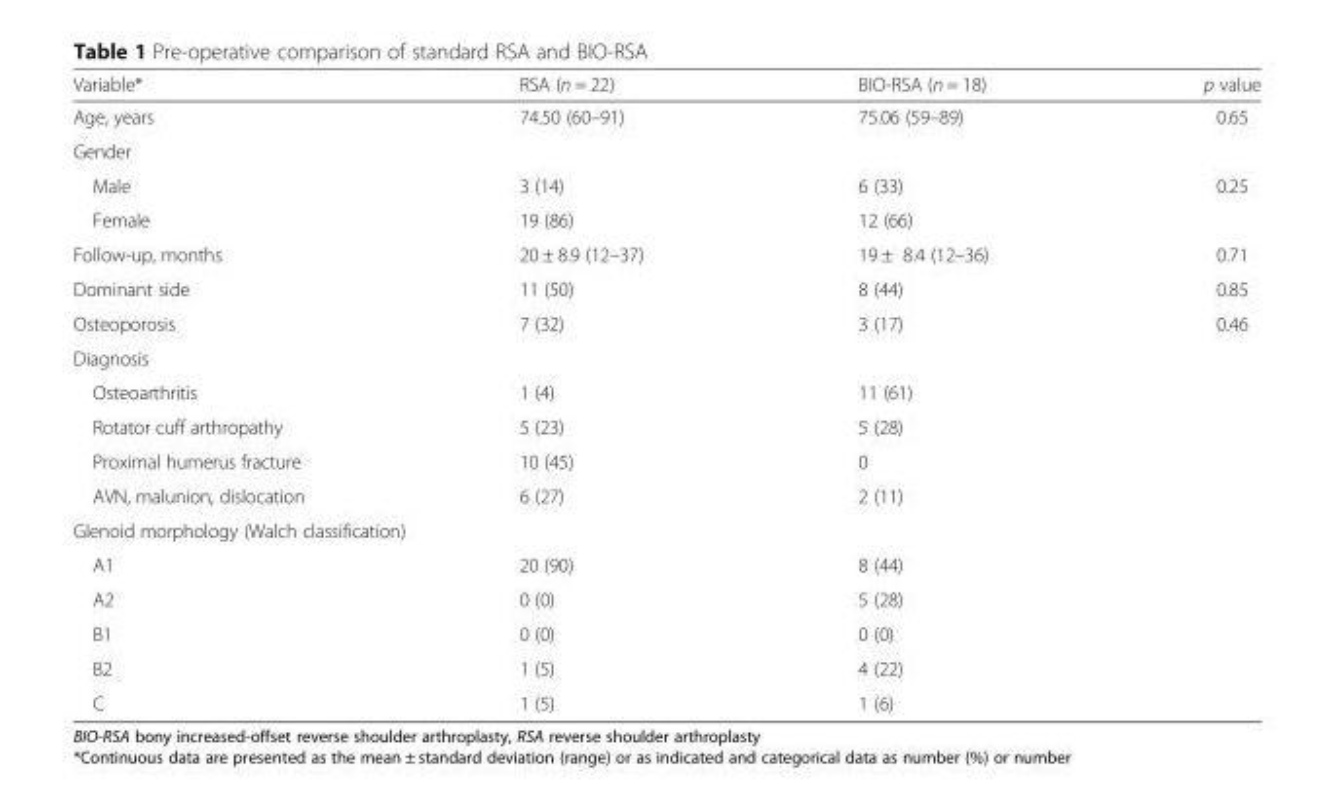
<table><thead><tr><td>Variable*</td><td>RSA (n = 22)</td><td>BIO-RSA (n = 18)</td><td>p value</td></tr></thead><tbody><tr><td>Age, years</td><td>74.50 (60–91)</td><td>75.06 (59–89)</td><td>0.65</td></tr><tr><td colspan="4">Gender</td></tr><tr><td>Male</td><td>3 (14)</td><td>6 (33)</td><td>0.25</td></tr><tr><td>Female</td><td>19 (86)</td><td>12 (66)</td><td></td></tr><tr><td>Follow-up, months</td><td>20 ± 8.9 (12–37)</td><td>19 ± 8.4 (12–36)</td><td>0.71</td></tr><tr><td>Dominant side</td><td>11 (50)</td><td>8 (44)</td><td>0.85</td></tr><tr><td>Osteoporosis</td><td>7 (32)</td><td>3 (17)</td><td>0.46</td></tr><tr><td colspan="4">Diagnosis</td></tr><tr><td>Osteoarthritis</td><td>1 (4)</td><td>11 (61)</td><td></td></tr><tr><td>Rotator cuff arthropathy</td><td>5 (23)</td><td>5 (28)</td><td></td></tr><tr><td>Proximal humerus fracture</td><td>10 (45)</td><td>0</td><td></td></tr><tr><td>AVN, malunion, dislocation</td><td>6 (27)</td><td>2 (11)</td><td></td></tr><tr><td colspan="4">Glenoid morphology (Walch classification)</td></tr><tr><td>A1</td><td>20 (90)</td><td>8 (44)</td><td></td></tr><tr><td>A2</td><td>0 (0)</td><td>5 (28)</td><td></td></tr><tr><td>B1</td><td>0 (0)</td><td>0 (0)</td><td></td></tr><tr><td>B2</td><td>1 (5)</td><td>4 (22)</td><td></td></tr><tr><td>C</td><td>1 (5)</td><td>1 (6)</td><td></td></tr></tbody></table>